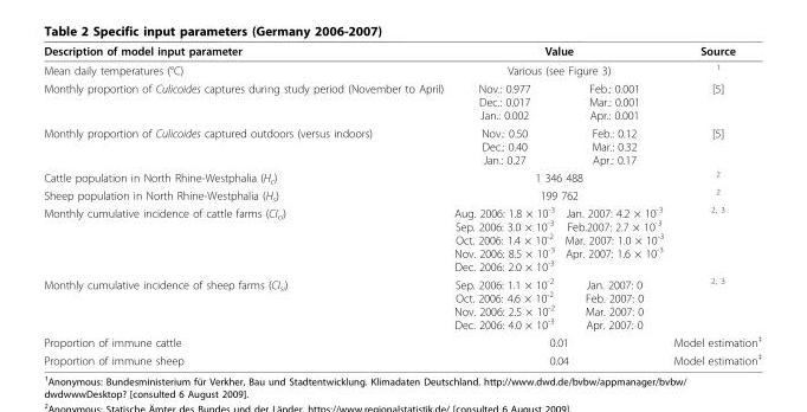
<table><thead><tr><td rowspan="3">Description of model input parameter Mean daily temperatures (°C) Monthly proportion of Culicoides captures during study period (November to April)</td><td rowspan="2" colspan="2">Value Various (see Figure 3)</td><td rowspan="3">Source 1 [5]</td></tr><tr></tr><tr><td>Nov.: 0.977 Dec.: 0.017 Jan.: 0.002</td><td>Feb.: 0.001 Mar.: 0.001 Apr.: 0.001</td></tr></thead><tbody><tr><td>Monthly proportion of Culicoides captured outdoors (versus indoors)</td><td>Nov.: 0.50 Dec.: 0.40 Jan.: 0.27</td><td>Feb.: 0.12 Mar.: 0.32 Apr.: 0.17</td><td>[5]</td></tr><tr><td>Cattle population in North Rhine-Westphalia (H<sub>c</sub>)</td><td colspan="2">1 346 488</td><td><sup>2</sup></td></tr><tr><td>Sheep population in North Rhine-Westphalia (H<sub>s</sub>)</td><td colspan="2">199 762</td><td><sup>2</sup></td></tr><tr><td>Monthly cumulative incidence of cattle farms (CI<sub>ci</sub>)</td><td>Aug. 2006: 1.8 × 10<sup>-3</sup> Sep. 2006: 3.0 × 10<sup>-3</sup> Oct. 2006: 1.4 × 10<sup>-2</sup> Nov. 2006: 8.5 × 10<sup>-3</sup> Dec. 2006: 2.0 × 10<sup>-3</sup></td><td>Jan. 2007: 4.2 × 10<sup>-3</sup> Feb.2007: 2.7 × 10<sup>-3</sup> Mar. 2007: 1.0 × 10<sup>-3</sup> Apr. 2007: 1.6 × 10<sup>-3</sup></td><td><sup>2, 3</sup></td></tr><tr><td>Monthly cumulative incidence of sheep farms (CI<sub>si</sub>)</td><td>Sep. 2006: 1.1 × 10<sup>-2</sup> Oct. 2006: 4.6 × 10<sup>-2</sup> Nov. 2006: 2.5 × 10<sup>-2</sup> Dec. 2006: 4.0 × 10<sup>-3</sup></td><td>Jan. 2007: 0 Feb. 2007: 0 Mar. 2007: 0 Apr. 2007: 0</td><td><sup>2, 3</sup></td></tr><tr><td>Proportion of immune cattle</td><td colspan="2">0.01</td><td>Model estimation<sup>‡</sup></td></tr><tr><td>Proportion of immune sheep</td><td colspan="2">0.04</td><td>Model estimation<sup>‡</sup></td></tr></tbody></table>